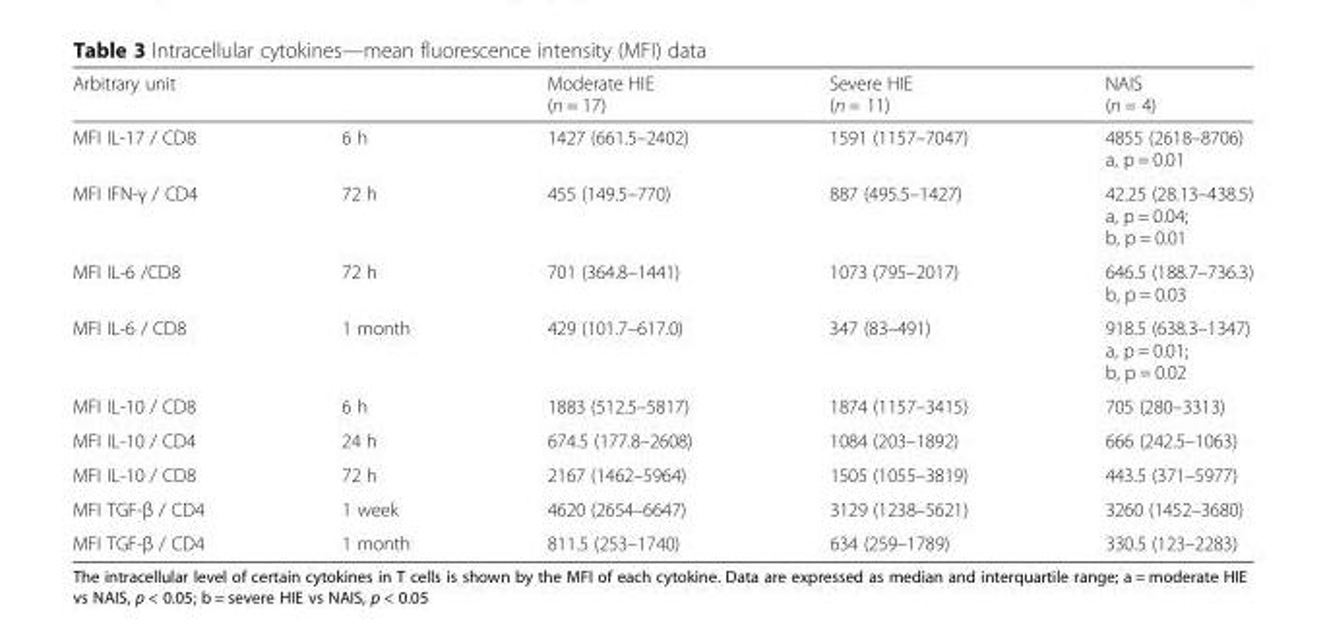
<table><thead><tr><td>Arbitrary unit</td><td></td><td>Moderate HIE (n = 17)</td><td>Severe HIE (n = 11)</td><td>NAIS (n = 4)</td></tr></thead><tbody><tr><td>MFI IL-17 / CD8</td><td>6 h</td><td>1427 (661.5–2402)</td><td>1591 (1157–7047)</td><td>4855 (2618–8706) a, p = 0.01</td></tr><tr><td>MFI IFN-γ / CD4</td><td>72 h</td><td>455 (149.5–770)</td><td>887 (495.5–1427)</td><td>42.25 (28.13–438.5) a, p = 0.04; b, p = 0.01</td></tr><tr><td>MFI IL-6 /CD8</td><td>72 h</td><td>701 (364.8–1441)</td><td>1073 (795–2017)</td><td>646.5 (188.7–736.3) b, p = 0.03</td></tr><tr><td>MFI IL-6 / CD8</td><td>1 month</td><td>429 (101.7–617.0)</td><td>347 (83–491)</td><td>918.5 (638.3–1347) a, p = 0.01; b, p = 0.02</td></tr><tr><td>MFI IL-10 / CD8</td><td>6 h</td><td>1883 (512.5–5817)</td><td>1874 (1157–3415)</td><td>705 (280–3313)</td></tr><tr><td>MFI IL-10 / CD4</td><td>24 h</td><td>674.5 (177.8–2608)</td><td>1084 (203–1892)</td><td>666 (242.5–1063)</td></tr><tr><td>MFI IL-10 / CD8</td><td>72 h</td><td>2167 (1462–5964)</td><td>1505 (1055–3819)</td><td>443.5 (371–5977)</td></tr><tr><td>MFI TGF-β / CD4</td><td>1 week</td><td>4620 (2654–6647)</td><td>3129 (1238–5621)</td><td>3260 (1452–3680)</td></tr><tr><td>MFI TGF-β / CD4</td><td>1 month</td><td>811.5 (253–1740)</td><td>634 (259–1789)</td><td>330.5 (123–2283)</td></tr></tbody></table>